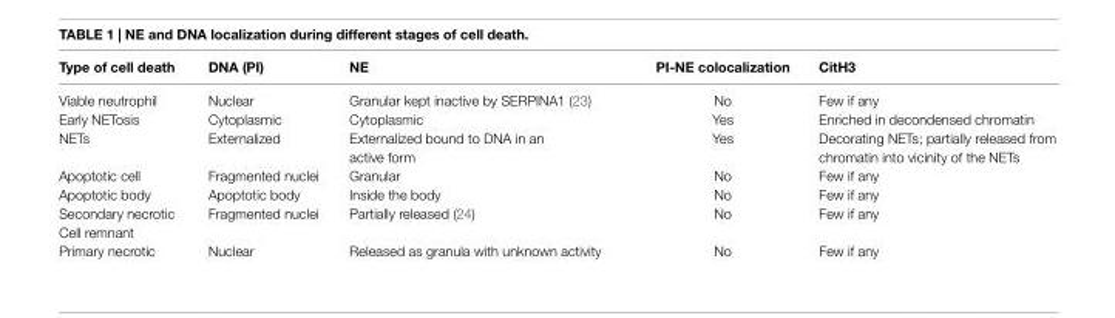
<table><thead><tr><td>type of cell death</td><td>DNa (pI)</td><td>Ne</td><td>pI-Ne colocalization</td><td>CitH3</td></tr></thead><tbody><tr><td>Viable neutrophil</td><td>Nuclear</td><td>Granular kept inactive by SERPINA1 (23)</td><td>No</td><td>Few if any</td></tr><tr><td>Early NETosis</td><td>Cytoplasmic</td><td>Cytoplasmic</td><td>Yes</td><td>Enriched in decondensed chromatin</td></tr><tr><td>NETs</td><td>Externalized</td><td>Externalized bound to DNA in an active form</td><td>Yes</td><td>Decorating NETs; partially released from chromatin into vicinity of the NETs</td></tr><tr><td>Apoptotic cell</td><td>Fragmented nuclei</td><td>Granular</td><td>No</td><td>Few if any</td></tr><tr><td>Apoptotic body</td><td>Apoptotic body</td><td>Inside the body</td><td>No</td><td>Few if any</td></tr><tr><td>Secondary necrotic Cell remnant</td><td>Fragmented nuclei</td><td>Partially released (24)</td><td>No</td><td>Few if any</td></tr><tr><td>Primary necrotic</td><td>Nuclear</td><td>Released as granula with unknown activity</td><td>No</td><td>Few if any</td></tr></tbody></table>